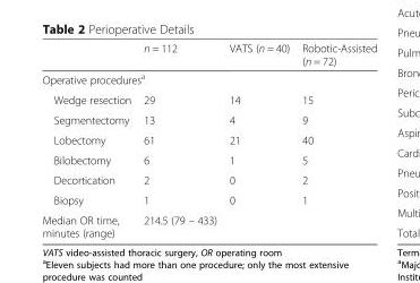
<table><thead><tr><td></td><td>n = 112</td><td>VATS (n = 40)</td><td>Robotic-Assisted (n = 72)</td></tr></thead><tbody><tr><td colspan="4">Operative procedures<sup>a</sup></td></tr><tr><td>Wedge resection</td><td>29</td><td>14</td><td>15</td></tr><tr><td>Segmentectomy</td><td>13</td><td>4</td><td>9</td></tr><tr><td>Lobectomy</td><td>61</td><td>21</td><td>40</td></tr><tr><td>Bilobectomy</td><td>6</td><td>1</td><td>5</td></tr><tr><td>Decortication</td><td>2</td><td>0</td><td>2</td></tr><tr><td>Biopsy</td><td>1</td><td>0</td><td>1</td></tr><tr><td>Median OR time, minutes (range)</td><td>214.5 (79 – 433)</td><td></td><td></td></tr></tbody></table>